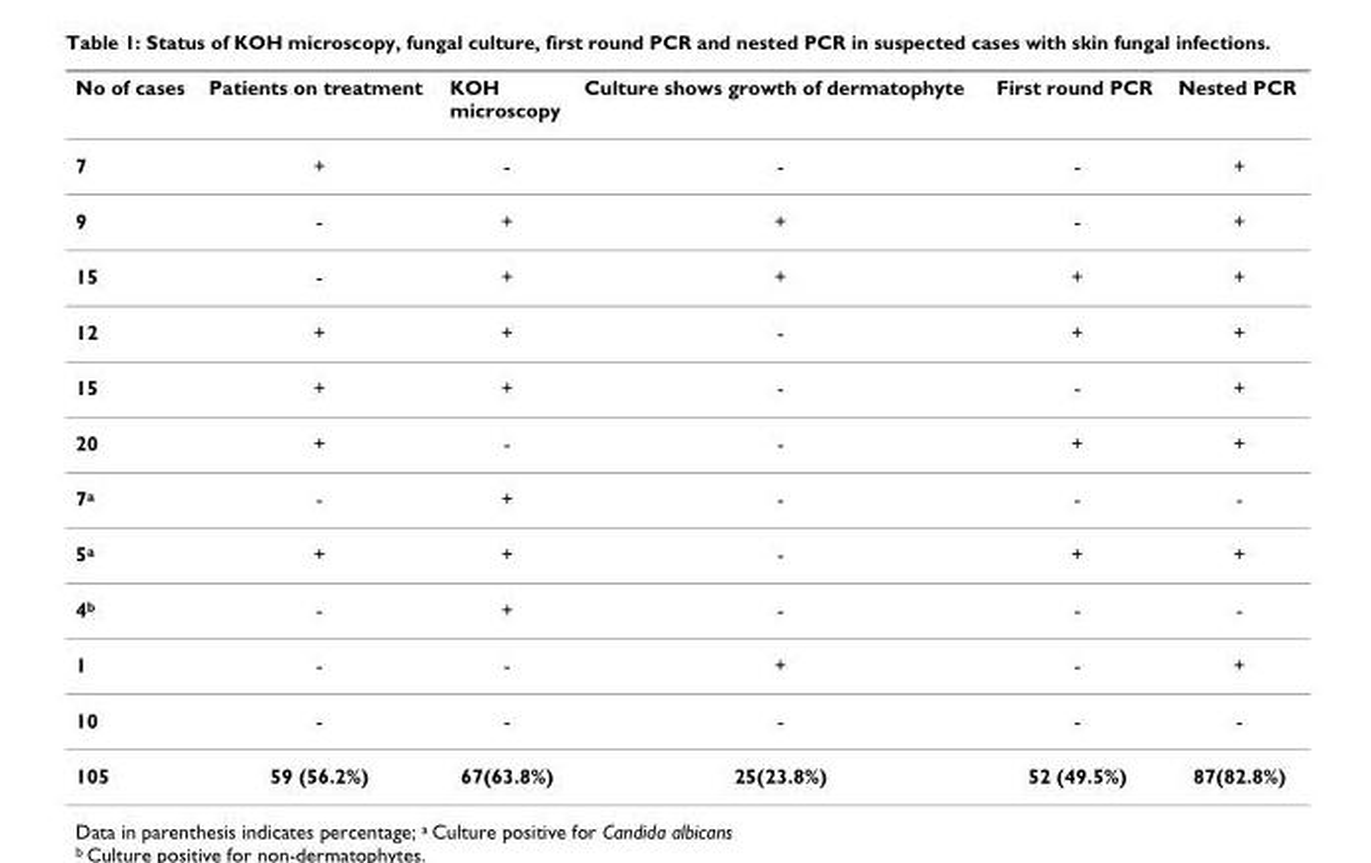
<table><thead><tr><td>No of cases</td><td>Patients on treatment</td><td>KOH microscopy</td><td>Culture shows growth of dermatophyte</td><td>First round PCR</td><td>Nested PCR</td></tr></thead><tbody><tr><td>7</td><td>+</td><td>-</td><td>-</td><td>-</td><td>+</td></tr><tr><td>9</td><td>-</td><td>+</td><td>+</td><td>-</td><td>+</td></tr><tr><td>15</td><td>-</td><td>+</td><td>+</td><td>+</td><td>+</td></tr><tr><td>12</td><td>+</td><td>+</td><td>-</td><td>+</td><td>+</td></tr><tr><td>15</td><td>+</td><td>+</td><td>-</td><td>-</td><td>+</td></tr><tr><td>20</td><td>+</td><td>-</td><td>-</td><td>+</td><td>+</td></tr><tr><td>7<sup>a</sup></td><td>-</td><td>+</td><td>-</td><td>-</td><td>-</td></tr><tr><td>5<sup>a</sup></td><td>+</td><td>+</td><td>-</td><td>+</td><td>+</td></tr><tr><td>4<sup>b</sup></td><td>-</td><td>+</td><td>-</td><td>-</td><td>-</td></tr><tr><td>1</td><td>-</td><td>-</td><td>+</td><td>-</td><td>+</td></tr><tr><td>10</td><td>-</td><td>-</td><td>-</td><td>-</td><td>-</td></tr><tr><td>105</td><td>59 (56.2%)</td><td>67(63.8%)</td><td>25(23.8%)</td><td>52 (49.5%)</td><td>87(82.8%)</td></tr></tbody></table>